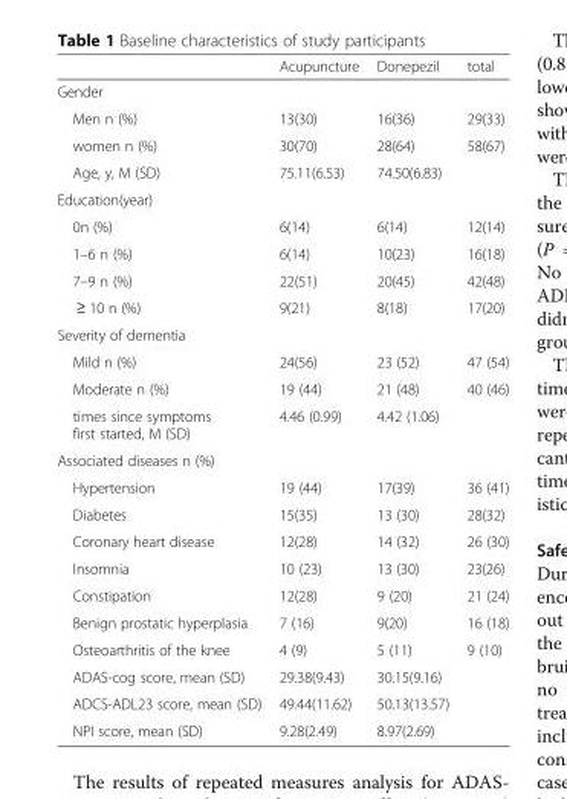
<table><thead><tr><td></td><td>Acupuncture</td><td>Donepezil</td><td>total</td></tr></thead><tbody><tr><td colspan="4">Gender</td></tr><tr><td>Men n (%)</td><td>13(30)</td><td>16(36)</td><td>29(33)</td></tr><tr><td>women n (%)</td><td>30(70)</td><td>28(64)</td><td>58(67)</td></tr><tr><td>Age, y, M (SD)</td><td>75.11(6.53)</td><td>74.50(6.83)</td><td></td></tr><tr><td colspan="4">Education(year)</td></tr><tr><td>0n (%)</td><td>6(14)</td><td>6(14)</td><td>12(14)</td></tr><tr><td>1–6 n (%)</td><td>6(14)</td><td>10(23)</td><td>16(18)</td></tr><tr><td>7–9 n (%)</td><td>22(51)</td><td>20(45)</td><td>42(48)</td></tr><tr><td>≥ 10 n (%)</td><td>9(21)</td><td>8(18)</td><td>17(20)</td></tr><tr><td colspan="4">Severity of dementia</td></tr><tr><td>Mild n (%)</td><td>24(56)</td><td>23 (52)</td><td>47 (54)</td></tr><tr><td>Moderate n (%)</td><td>19 (44)</td><td>21 (48)</td><td>40 (46)</td></tr><tr><td>times since symptoms first started, M (SD)</td><td>4.46 (0.99)</td><td>4.42 (1.06)</td><td></td></tr><tr><td colspan="4">Associated diseases n (%)</td></tr><tr><td>Hypertension</td><td>19 (44)</td><td>17(39)</td><td>36 (41)</td></tr><tr><td>Diabetes</td><td>15(35)</td><td>13 (30)</td><td>28(32)</td></tr><tr><td>Coronary heart disease</td><td>12(28)</td><td>14 (32)</td><td>26 (30)</td></tr><tr><td>Insomnia</td><td>10 (23)</td><td>13 (30)</td><td>23(26)</td></tr><tr><td>Constipation</td><td>12(28)</td><td>9 (20)</td><td>21 (24)</td></tr><tr><td>Benign prostatic hyperplasia</td><td>7 (16)</td><td>9(20)</td><td>16 (18)</td></tr><tr><td>Osteoarthritis of the knee</td><td>4 (9)</td><td>5 (11)</td><td>9 (10)</td></tr><tr><td>ADAS-cog score, mean (SD)</td><td>29.38(9.43)</td><td>30.15(9.16)</td><td></td></tr><tr><td>ADCS-ADL23 score, mean (SD)</td><td>49.44(11.62)</td><td>50.13(13.57)</td><td></td></tr><tr><td>NPI score, mean (SD)</td><td>9.28(2.49)</td><td>8.97(2.69)</td><td></td></tr></tbody></table>